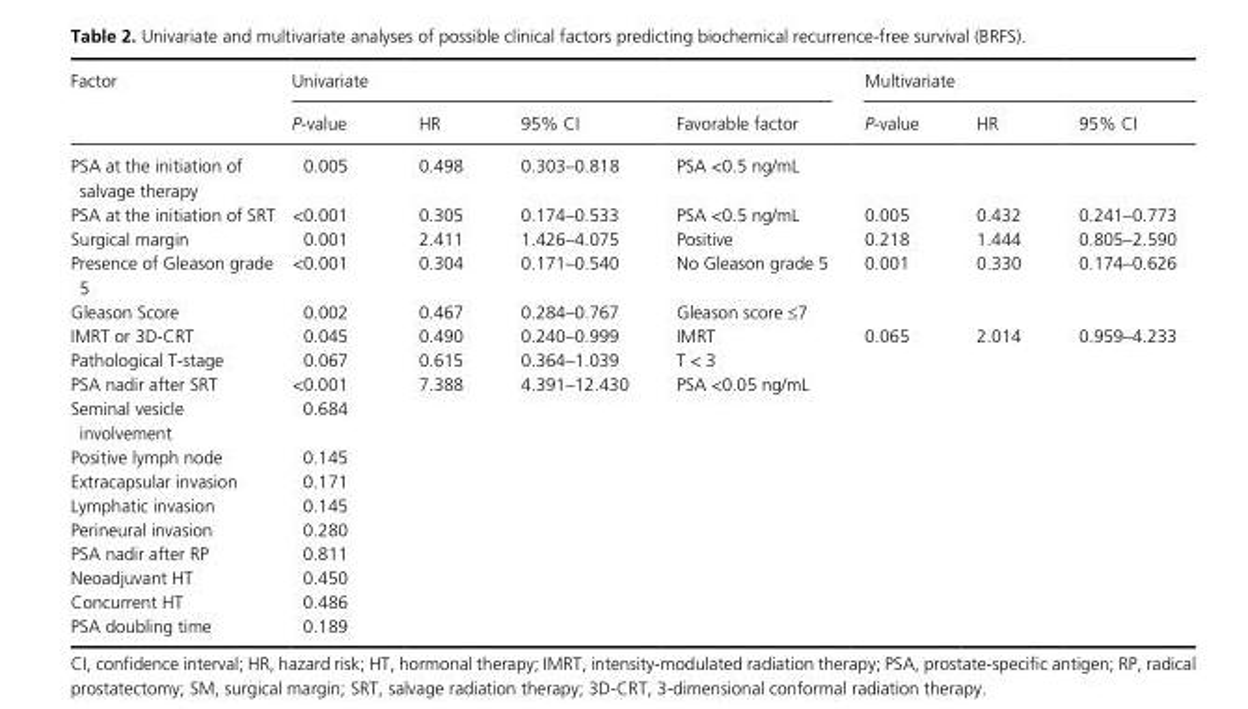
<table><thead><tr><td rowspan="2">Factor</td><td colspan="4">Univariate</td><td colspan="3">Multivariate</td></tr><tr><td>P- value</td><td>HR</td><td>95% CI</td><td>Favorable factor</td><td>P- value</td><td>HR</td><td>95% CI</td></tr></thead><tbody><tr><td>PSA at the initiation of salvage therapy</td><td>0.005</td><td>0.498</td><td>0.303–0.818</td><td>PSA &lt;0.5 ng/mL</td><td></td><td></td><td></td></tr><tr><td>PSA at the initiation of SRT</td><td>&lt;0.001</td><td>0.305</td><td>0.174–0.533</td><td>PSA &lt;0.5 ng/mL</td><td>0.005</td><td>0.432</td><td>0.241–0.773</td></tr><tr><td>Surgical margin</td><td>0.001</td><td>2.411</td><td>1.426–4.075</td><td>Positive</td><td>0.218</td><td>1.444</td><td>0.805–2.590</td></tr><tr><td>Presence of Gleason grade 5</td><td>&lt;0.001</td><td>0.304</td><td>0.171–0.540</td><td>No Gleason grade 5</td><td>0.001</td><td>0.330</td><td>0.174–0.626</td></tr><tr><td>Gleason Score</td><td>0.002</td><td>0.467</td><td>0.284–0.767</td><td>Gleason score ≤7</td><td></td><td></td><td></td></tr><tr><td>IMRT or 3D- CRT</td><td>0.045</td><td>0.490</td><td>0.240–0.999</td><td>IMRT</td><td>0.065</td><td>2.014</td><td>0.959–4.233</td></tr><tr><td>Pathological T- stage</td><td>0.067</td><td>0.615</td><td>0.364–1.039</td><td>T &lt; 3</td><td></td><td></td><td></td></tr><tr><td>PSA nadir after SRT</td><td>&lt;0.001</td><td>7.388</td><td>4.391–12.430</td><td>PSA &lt;0.05 ng/mL</td><td></td><td></td><td></td></tr><tr><td>Seminal vesicle involvement</td><td>0.684</td><td></td><td></td><td></td><td></td><td></td><td></td></tr><tr><td>Positive lymph node</td><td>0.145</td><td></td><td></td><td></td><td></td><td></td><td></td></tr><tr><td>Extracapsular invasion</td><td>0.171</td><td></td><td></td><td></td><td></td><td></td><td></td></tr><tr><td>Lymphatic invasion</td><td>0.145</td><td></td><td></td><td></td><td></td><td></td><td></td></tr><tr><td>Perineural invasion</td><td>0.280</td><td></td><td></td><td></td><td></td><td></td><td></td></tr><tr><td>PSA nadir after RP</td><td>0.811</td><td></td><td></td><td></td><td></td><td></td><td></td></tr><tr><td>Neoadjuvant HT</td><td>0.450</td><td></td><td></td><td></td><td></td><td></td><td></td></tr><tr><td>Concurrent HT</td><td>0.486</td><td></td><td></td><td></td><td></td><td></td><td></td></tr><tr><td>PSA doubling time</td><td>0.189</td><td></td><td></td><td></td><td></td><td></td><td></td></tr></tbody></table>